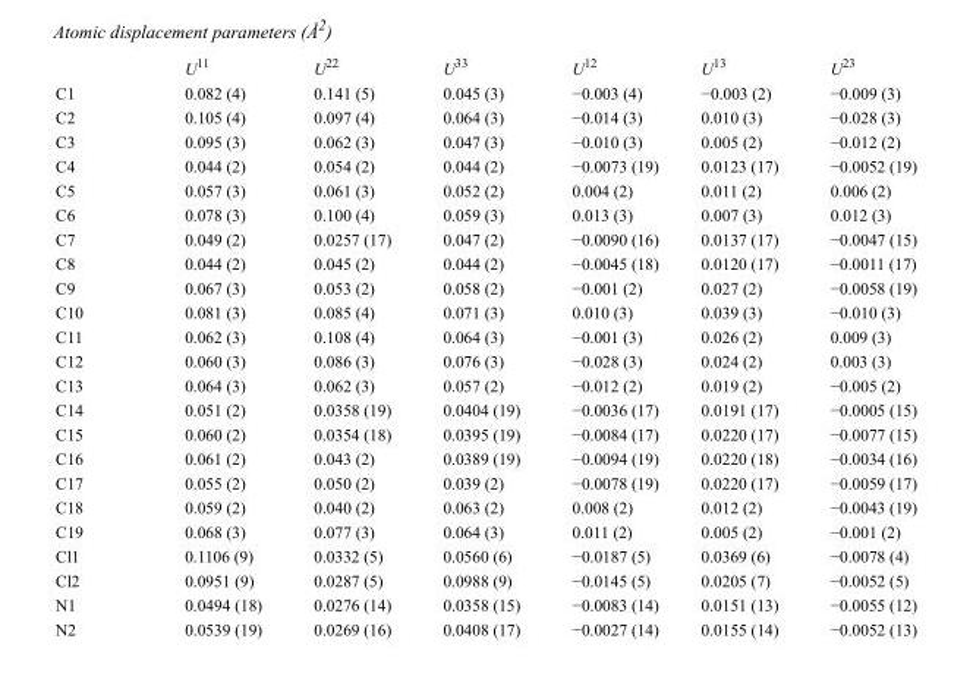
<table><thead><tr><td></td><td>U<sup>11</sup></td><td>U<sup>22</sup></td><td>U<sup>33</sup></td><td>U<sup>12</sup></td><td>U<sup>13</sup></td><td>U<sup>23</sup></td></tr></thead><tbody><tr><td>C1</td><td>0.082 (4)</td><td>0.141 (5)</td><td>0.045 (3)</td><td>−0.003 (4)</td><td>−0.003 (2)</td><td>−0.009 (3)</td></tr><tr><td>C2</td><td>0.105 (4)</td><td>0.097 (4)</td><td>0.064 (3)</td><td>−0.014 (3)</td><td>0.010 (3)</td><td>−0.028 (3)</td></tr><tr><td>C3</td><td>0.095 (3)</td><td>0.062 (3)</td><td>0.047 (3)</td><td>−0.010 (3)</td><td>0.005 (2)</td><td>−0.012 (2)</td></tr><tr><td>C4</td><td>0.044 (2)</td><td>0.054 (2)</td><td>0.044 (2)</td><td>−0.0073 (19)</td><td>0.0123 (17)</td><td>−0.0052 (19)</td></tr><tr><td>C5</td><td>0.057 (3)</td><td>0.061 (3)</td><td>0.052 (2)</td><td>0.004 (2)</td><td>0.011 (2)</td><td>0.006 (2)</td></tr><tr><td>C6</td><td>0.078 (3)</td><td>0.100 (4)</td><td>0.059 (3)</td><td>0.013 (3)</td><td>0.007 (3)</td><td>0.012 (3)</td></tr><tr><td>C7</td><td>0.049 (2)</td><td>0.0257 (17)</td><td>0.047 (2)</td><td>−0.0090 (16)</td><td>0.0137 (17)</td><td>−0.0047 (15)</td></tr><tr><td>C8</td><td>0.044 (2)</td><td>0.045 (2)</td><td>0.044 (2)</td><td>−0.0045 (18)</td><td>0.0120 (17)</td><td>−0.0011 (17)</td></tr><tr><td>C9</td><td>0.067 (3)</td><td>0.053 (2)</td><td>0.058 (2)</td><td>−0.001 (2)</td><td>0.027 (2)</td><td>−0.0058 (19)</td></tr><tr><td>C10</td><td>0.081 (3)</td><td>0.085 (4)</td><td>0.071 (3)</td><td>0.010 (3)</td><td>0.039 (3)</td><td>−0.010 (3)</td></tr><tr><td>C11</td><td>0.062 (3)</td><td>0.108 (4)</td><td>0.064 (3)</td><td>−0.001 (3)</td><td>0.026 (2)</td><td>0.009 (3)</td></tr><tr><td>C12</td><td>0.060 (3)</td><td>0.086 (3)</td><td>0.076 (3)</td><td>−0.028 (3)</td><td>0.024 (2)</td><td>0.003 (3)</td></tr><tr><td>C13</td><td>0.064 (3)</td><td>0.062 (3)</td><td>0.057 (2)</td><td>−0.012 (2)</td><td>0.019 (2)</td><td>−0.005 (2)</td></tr><tr><td>C14</td><td>0.051 (2)</td><td>0.0358 (19)</td><td>0.0404 (19)</td><td>−0.0036 (17)</td><td>0.0191 (17)</td><td>−0.0005 (15)</td></tr><tr><td>C15</td><td>0.060 (2)</td><td>0.0354 (18)</td><td>0.0395 (19)</td><td>−0.0084 (17)</td><td>0.0220 (17)</td><td>−0.0077 (15)</td></tr><tr><td>C16</td><td>0.061 (2)</td><td>0.043 (2)</td><td>0.0389 (19)</td><td>−0.0094 (19)</td><td>0.0220 (18)</td><td>−0.0034 (16)</td></tr><tr><td>C17</td><td>0.055 (2)</td><td>0.050 (2)</td><td>0.039 (2)</td><td>−0.0078 (19)</td><td>0.0220 (17)</td><td>−0.0059 (17)</td></tr><tr><td>C18</td><td>0.059 (2)</td><td>0.040 (2)</td><td>0.063 (2)</td><td>0.008 (2)</td><td>0.012 (2)</td><td>−0.0043 (19)</td></tr><tr><td>C19</td><td>0.068 (3)</td><td>0.077 (3)</td><td>0.064 (3)</td><td>0.011 (2)</td><td>0.005 (2)</td><td>−0.001 (2)</td></tr><tr><td>Cl1</td><td>0.1106 (9)</td><td>0.0332 (5)</td><td>0.0560 (6)</td><td>−0.0187 (5)</td><td>0.0369 (6)</td><td>−0.0078 (4)</td></tr><tr><td>Cl2</td><td>0.0951 (9)</td><td>0.0287 (5)</td><td>0.0988 (9)</td><td>−0.0145 (5)</td><td>0.0205 (7)</td><td>−0.0052 (5)</td></tr><tr><td>N1</td><td>0.0494 (18)</td><td>0.0276 (14)</td><td>0.0358 (15)</td><td>−0.0083 (14)</td><td>0.0151 (13)</td><td>−0.0055 (12)</td></tr><tr><td>N2</td><td>0.0539 (19)</td><td>0.0269 (16)</td><td>0.0408 (17)</td><td>−0.0027 (14)</td><td>0.0155 (14)</td><td>−0.0052 (13)</td></tr></tbody></table>